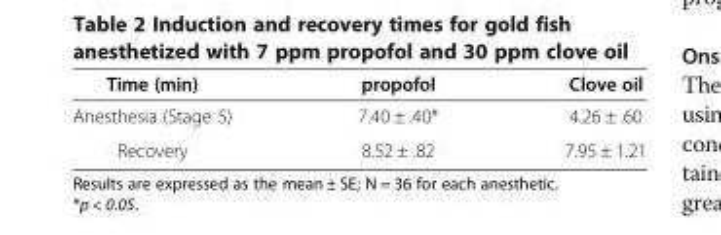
<table><thead><tr><td>Time (min)</td><td>propofol</td><td>Clove oil</td></tr></thead><tbody><tr><td>Anesthesia (Stage 5)</td><td>7.40 ± .40*</td><td>4.26 ± .60</td></tr><tr><td>Recovery</td><td>8.52 ± .82</td><td>7.95 ± 1.21</td></tr></tbody></table>